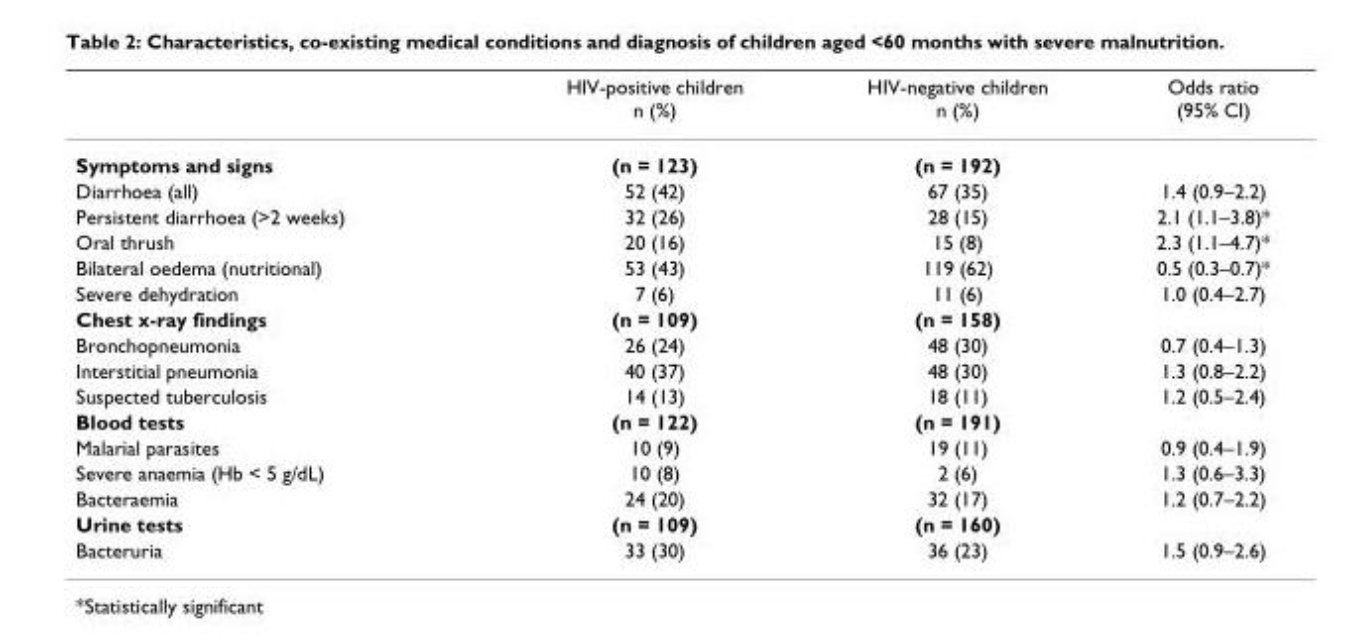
<table><thead><tr><td></td><td>HIV-positive children n (%)</td><td>HIV-negative children n (%)</td><td>Odds ratio (95% CI)</td></tr></thead><tbody><tr><td>Symptoms and signs</td><td>(n = 123)</td><td>(n = 192)</td><td></td></tr><tr><td>Diarrhoea (all)</td><td>52 (42)</td><td>67 (35)</td><td>1.4 (0.9–2.2)</td></tr><tr><td>Persistent diarrhoea (&gt;2 weeks)</td><td>32 (26)</td><td>28 (15)</td><td>2.1 (1.1–3.8)*</td></tr><tr><td>Oral thrush</td><td>20 (16)</td><td>15 (8)</td><td>2.3 (1.1–4.7)*</td></tr><tr><td>Bilateral oedema (nutritional)</td><td>53 (43)</td><td>119 (62)</td><td>0.5 (0.3–0.7)*</td></tr><tr><td>Severe dehydration</td><td>7 (6)</td><td>11 (6)</td><td>1.0 (0.4–2.7)</td></tr><tr><td>Chest x-ray findings</td><td>(n = 109)</td><td>(n = 158)</td><td></td></tr><tr><td>Bronchopneumonia</td><td>26 (24)</td><td>48 (30)</td><td>0.7 (0.4–1.3)</td></tr><tr><td>Interstitial pneumonia</td><td>40 (37)</td><td>48 (30)</td><td>1.3 (0.8–2.2)</td></tr><tr><td>Suspected tuberculosis</td><td>14 (13)</td><td>18 (11)</td><td>1.2 (0.5–2.4)</td></tr><tr><td>Blood tests</td><td>(n = 122)</td><td>(n = 191)</td><td></td></tr><tr><td>Malarial parasites</td><td>10 (9)</td><td>19 (11)</td><td>0.9 (0.4–1.9)</td></tr><tr><td>Severe anaemia (Hb &lt; 5 g/dL)</td><td>10 (8)</td><td>2 (6)</td><td>1.3 (0.6–3.3)</td></tr><tr><td>Bacteraemia</td><td>24 (20)</td><td>32 (17)</td><td>1.2 (0.7–2.2)</td></tr><tr><td>Urine tests</td><td>(n = 109)</td><td>(n = 160)</td><td></td></tr><tr><td>Bacteruria</td><td>33 (30)</td><td>36 (23)</td><td>1.5 (0.9–2.6)</td></tr></tbody></table>